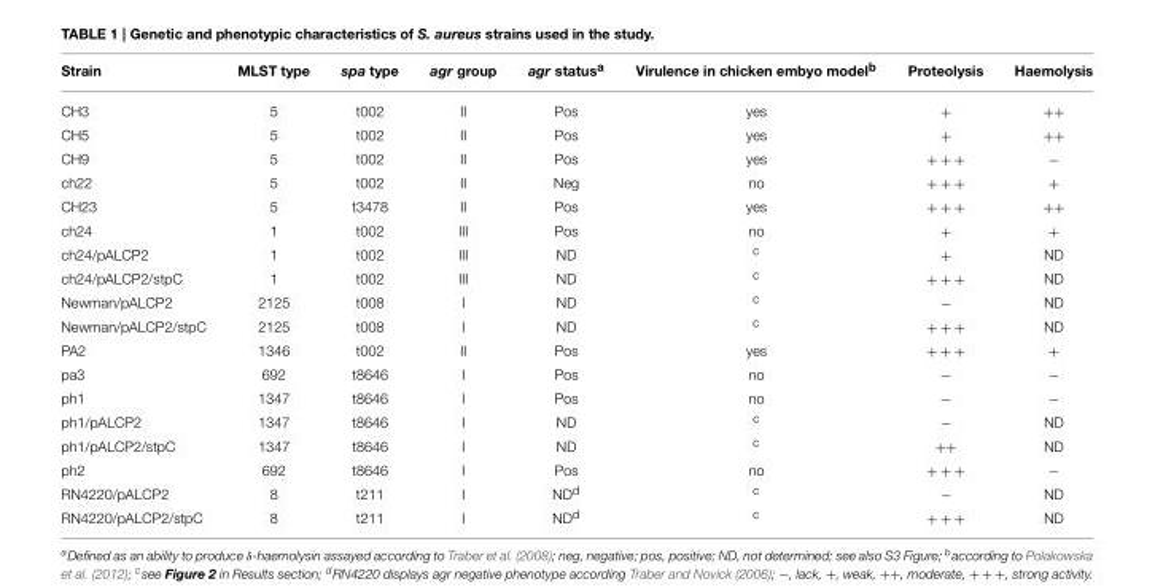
<table><thead><tr><td>Strain</td><td>MLST type</td><td>spa type</td><td>agr group</td><td>agr status<sup>a</sup></td><td>Virulence in chicken embyo model<sup>b</sup></td><td>Proteolysis</td><td>Haemolysis</td></tr></thead><tbody><tr><td>CH3</td><td>5</td><td>t002</td><td>II</td><td>Pos</td><td>yes</td><td>+</td><td>++</td></tr><tr><td>CH5</td><td>5</td><td>t002</td><td>II</td><td>Pos</td><td>yes</td><td>+</td><td>++</td></tr><tr><td>CH9</td><td>5</td><td>t002</td><td>II</td><td>Pos</td><td>yes</td><td>+ + +</td><td>−</td></tr><tr><td>ch22</td><td>5</td><td>t002</td><td>II</td><td>Neg</td><td>no</td><td>+ + +</td><td>+</td></tr><tr><td>CH23</td><td>5</td><td>t3478</td><td>II</td><td>Pos</td><td>yes</td><td>+ + +</td><td>++</td></tr><tr><td>ch24</td><td>1</td><td>t002</td><td>III</td><td>Pos</td><td>no</td><td>+</td><td>+</td></tr><tr><td>ch24/pALCP2</td><td>1</td><td>t002</td><td>III</td><td>ND</td><td><sup>c</sup></td><td>+</td><td>ND</td></tr><tr><td>ch24/pALCP2/stpC</td><td>1</td><td>t002</td><td>III</td><td>ND</td><td><sup>c</sup></td><td>+ + +</td><td>ND</td></tr><tr><td>Newman/pALCP2</td><td>2125</td><td>t008</td><td>I</td><td>ND</td><td><sup>c</sup></td><td>−</td><td>ND</td></tr><tr><td>Newman/pALCP2/stpC</td><td>2125</td><td>t008</td><td>I</td><td>ND</td><td><sup>c</sup></td><td>+ + +</td><td>ND</td></tr><tr><td>PA2</td><td>1346</td><td>t002</td><td>II</td><td>Pos</td><td>yes</td><td>+ + +</td><td>+</td></tr><tr><td>pa3</td><td>692</td><td>t8646</td><td>I</td><td>Pos</td><td>no</td><td>−</td><td>−</td></tr><tr><td>ph1</td><td>1347</td><td>t8646</td><td>I</td><td>Pos</td><td>no</td><td>−</td><td>−</td></tr><tr><td>ph1/pALCP2</td><td>1347</td><td>t8646</td><td>I</td><td>ND</td><td><sup>c</sup></td><td>−</td><td>ND</td></tr><tr><td>ph1/pALCP2/stpC</td><td>1347</td><td>t8646</td><td>I</td><td>ND</td><td><sup>c</sup></td><td>++</td><td>ND</td></tr><tr><td>ph2</td><td>692</td><td>t8646</td><td>I</td><td>Pos</td><td>no</td><td>+ + +</td><td>−</td></tr><tr><td>RN4220/pALCP2</td><td>8</td><td>t211</td><td>I</td><td>ND<sup>d</sup></td><td><sup>c</sup></td><td>−</td><td>ND</td></tr><tr><td>RN4220/pALCP2/stpC</td><td>8</td><td>t211</td><td>I</td><td>ND<sup>d</sup></td><td><sup>c</sup></td><td>+ + +</td><td>ND</td></tr></tbody></table>